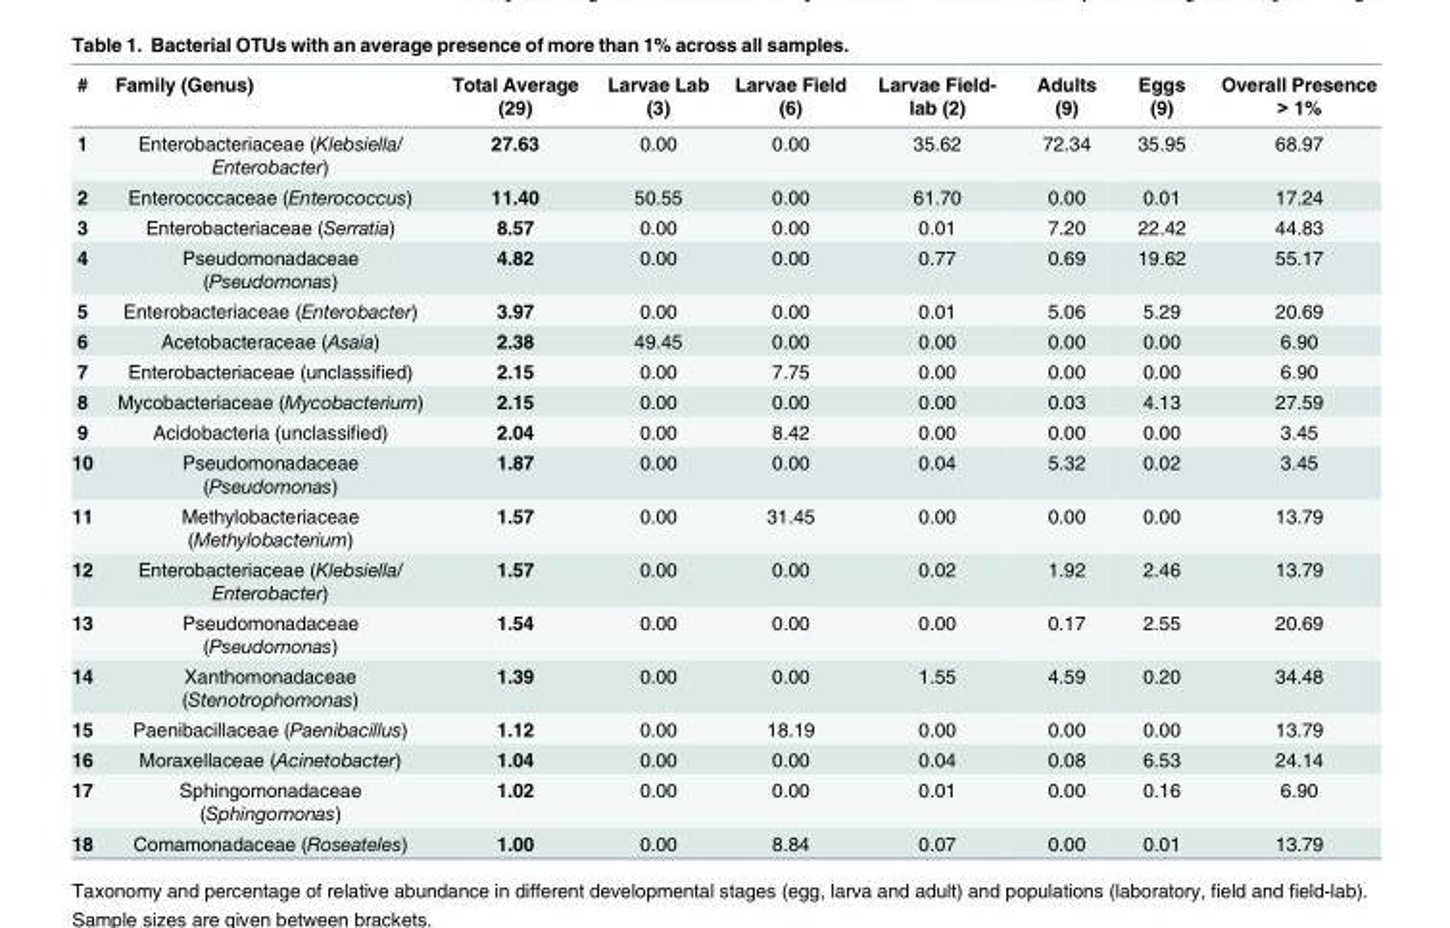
<table><thead><tr><td>#</td><td>Family (Genus)</td><td>Total Average (29)</td><td>Larvae Lab (3)</td><td>Larvae Field (6)</td><td>Larvae Field- lab (2)</td><td>Adults (9)</td><td>Eggs (9)</td><td>Overall Presence &gt; 1%</td></tr></thead><tbody><tr><td>1</td><td>Enterobacteriaceae (Klebsiella/ Enterobacter)</td><td>27.63</td><td>0.00</td><td>0.00</td><td>35.62</td><td>72.34</td><td>35.95</td><td>68.97</td></tr><tr><td>2</td><td>Enterococcaceae (Enterococcus)</td><td>11.40</td><td>50.55</td><td>0.00</td><td>61.70</td><td>0.00</td><td>0.01</td><td>17.24</td></tr><tr><td>3</td><td>Enterobacteriaceae (Serratia)</td><td>8.57</td><td>0.00</td><td>0.00</td><td>0.01</td><td>7.20</td><td>22.42</td><td>44.83</td></tr><tr><td>4</td><td>Pseudomonadaceae (Pseudomonas)</td><td>4.82</td><td>0.00</td><td>0.00</td><td>0.77</td><td>0.69</td><td>19.62</td><td>55.17</td></tr><tr><td>5</td><td>Enterobacteriaceae (Enterobacter)</td><td>3.97</td><td>0.00</td><td>0.00</td><td>0.01</td><td>5.06</td><td>5.29</td><td>20.69</td></tr><tr><td>6</td><td>Acetobacteraceae (Asaia)</td><td>2.38</td><td>49.45</td><td>0.00</td><td>0.00</td><td>0.00</td><td>0.00</td><td>6.90</td></tr><tr><td>7</td><td>Enterobacteriaceae (unclassified)</td><td>2.15</td><td>0.00</td><td>7.75</td><td>0.00</td><td>0.00</td><td>0.00</td><td>6.90</td></tr><tr><td>8</td><td>Mycobacteriaceae (Mycobacterium)</td><td>2.15</td><td>0.00</td><td>0.00</td><td>0.00</td><td>0.03</td><td>4.13</td><td>27.59</td></tr><tr><td>9</td><td>Acidobacteria (unclassified)</td><td>2.04</td><td>0.00</td><td>8.42</td><td>0.00</td><td>0.00</td><td>0.00</td><td>3.45</td></tr><tr><td>10</td><td>Pseudomonadaceae (Pseudomonas)</td><td>1.87</td><td>0.00</td><td>0.00</td><td>0.04</td><td>5.32</td><td>0.02</td><td>3.45</td></tr><tr><td>11</td><td>Methylobacteriaceae (Methylobacterium)</td><td>1.57</td><td>0.00</td><td>31.45</td><td>0.00</td><td>0.00</td><td>0.00</td><td>13.79</td></tr><tr><td>12</td><td>Enterobacteriaceae (Klebsiella/ Enterobacter)</td><td>1.57</td><td>0.00</td><td>0.00</td><td>0.02</td><td>1.92</td><td>2.46</td><td>13.79</td></tr><tr><td>13</td><td>Pseudomonadaceae (Pseudomonas)</td><td>1.54</td><td>0.00</td><td>0.00</td><td>0.00</td><td>0.17</td><td>2.55</td><td>20.69</td></tr><tr><td>14</td><td>Xanthomonadaceae (Stenotrophomonas)</td><td>1.39</td><td>0.00</td><td>0.00</td><td>1.55</td><td>4.59</td><td>0.20</td><td>34.48</td></tr><tr><td>15</td><td>Paenibacillaceae (Paenibacillus)</td><td>1.12</td><td>0.00</td><td>18.19</td><td>0.00</td><td>0.00</td><td>0.00</td><td>13.79</td></tr><tr><td>16</td><td>Moraxellaceae (Acinetobacter)</td><td>1.04</td><td>0.00</td><td>0.00</td><td>0.04</td><td>0.08</td><td>6.53</td><td>24.14</td></tr><tr><td>17</td><td>Sphingomonadaceae (Sphingomonas)</td><td>1.02</td><td>0.00</td><td>0.00</td><td>0.01</td><td>0.00</td><td>0.16</td><td>6.90</td></tr><tr><td>18</td><td>Comamonadaceae (Roseateles)</td><td>1.00</td><td>0.00</td><td>8.84</td><td>0.07</td><td>0.00</td><td>0.01</td><td>13.79</td></tr></tbody></table>